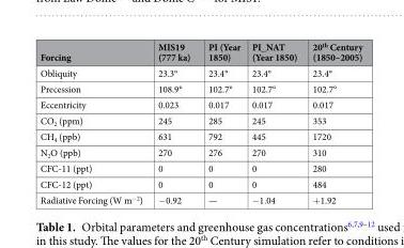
<table><thead><tr><td>Forcing</td><td>MIS19 (777 ka)</td><td>PI (Year 1850)</td><td>PI_NAT (Year 1850)</td><td>20<sup>th</sup> Century (1850–2005)</td></tr></thead><tbody><tr><td>Obliquity</td><td>23.3°</td><td>23.4°</td><td>23.4°</td><td>23.4°</td></tr><tr><td>Precession</td><td>108.9°</td><td>102.7°</td><td>102.7°</td><td>102.7°</td></tr><tr><td>Eccentricity</td><td>0.023</td><td>0.017</td><td>0.017</td><td>0.017</td></tr><tr><td>CO<sub>2</sub> (ppm)</td><td>245</td><td>285</td><td>245</td><td>353</td></tr><tr><td>CH<sub>4</sub> (ppb)</td><td>631</td><td>792</td><td>445</td><td>1720</td></tr><tr><td>N<sub>2</sub>O (ppb)</td><td>270</td><td>276</td><td>270</td><td>310</td></tr><tr><td>CFC-11 (ppt)</td><td>0</td><td>0</td><td>0</td><td>280</td></tr><tr><td>CFC-12 (ppt)</td><td>0</td><td>0</td><td>0</td><td>484</td></tr><tr><td>Radiative Forcing (W m<sup>−2</sup>)</td><td>−0.92</td><td>—</td><td>−1.04</td><td>+1.92</td></tr></tbody></table>